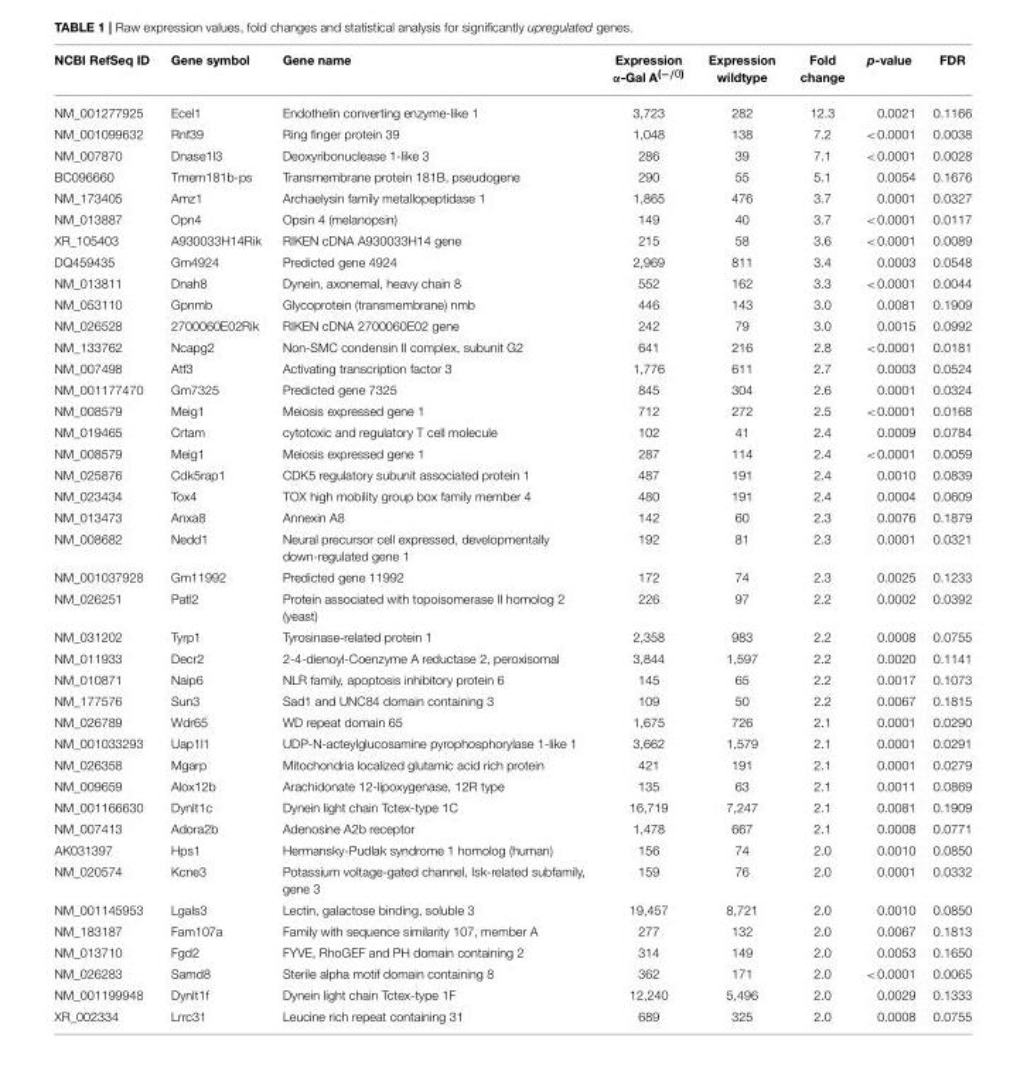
<table><thead><tr><td>NCBI RefSeq ID</td><td>Gene symbol</td><td>Gene name</td><td>Expression α-Gal A<sup>(−/0)</sup></td><td>Expression wildtype</td><td>Fold change</td><td>p-value</td><td>FDR</td></tr></thead><tbody><tr><td>NM_001277925</td><td>Ecel1</td><td>Endothelin converting enzyme-like 1</td><td>3,723</td><td>282</td><td>12.3</td><td>0.0021</td><td>0.1166</td></tr><tr><td>NM_001099632</td><td>Rnf39</td><td>Ring finger protein 39</td><td>1,048</td><td>138</td><td>7.2</td><td>&lt;0.0001</td><td>0.0038</td></tr><tr><td>NM_007870</td><td>Dnase1l3</td><td>Deoxyribonuclease 1-like 3</td><td>286</td><td>39</td><td>7.1</td><td>&lt;0.0001</td><td>0.0028</td></tr><tr><td>BC096660</td><td>Tmem181b-ps</td><td>Transmembrane protein 181B, pseudogene</td><td>290</td><td>55</td><td>5.1</td><td>0.0054</td><td>0.1676</td></tr><tr><td>NM_173405</td><td>Amz1</td><td>Archaelysin family metallopeptidase 1</td><td>1,865</td><td>476</td><td>3.7</td><td>0.0001</td><td>0.0327</td></tr><tr><td>NM_013887</td><td>Opn4</td><td>Opsin 4 (melanopsin)</td><td>149</td><td>40</td><td>3.7</td><td>&lt;0.0001</td><td>0.0117</td></tr><tr><td>XR_105403</td><td>A930033H14Rik</td><td>RIKEN cDNA A930033H14 gene</td><td>215</td><td>58</td><td>3.6</td><td>&lt;0.0001</td><td>0.0089</td></tr><tr><td>DQ459435</td><td>Gm4924</td><td>Predicted gene 4924</td><td>2,969</td><td>811</td><td>3.4</td><td>0.0003</td><td>0.0548</td></tr><tr><td>NM_013811</td><td>Dnah8</td><td>Dynein, axonemal, heavy chain 8</td><td>552</td><td>162</td><td>3.3</td><td>&lt;0.0001</td><td>0.0044</td></tr><tr><td>NM_053110</td><td>Gpnmb</td><td>Glycoprotein (transmembrane) nmb</td><td>446</td><td>143</td><td>3.0</td><td>0.0081</td><td>0.1909</td></tr><tr><td>NM_026528</td><td>2700060E02Rik</td><td>RIKEN cDNA 2700060E02 gene</td><td>242</td><td>79</td><td>3.0</td><td>0.0015</td><td>0.0992</td></tr><tr><td>NM_133762</td><td>Ncapg2</td><td>Non-SMC condensin II complex, subunit G2</td><td>641</td><td>216</td><td>2.8</td><td>&lt;0.0001</td><td>0.0181</td></tr><tr><td>NM_007498</td><td>Atf3</td><td>Activating transcription factor 3</td><td>1,776</td><td>611</td><td>2.7</td><td>0.0003</td><td>0.0524</td></tr><tr><td>NM_001177470</td><td>Gm7325</td><td>Predicted gene 7325</td><td>845</td><td>304</td><td>2.6</td><td>0.0001</td><td>0.0324</td></tr><tr><td>NM_008579</td><td>Meig1</td><td>Meiosis expressed gene 1</td><td>712</td><td>272</td><td>2.5</td><td>&lt;0.0001</td><td>0.0168</td></tr><tr><td>NM_019465</td><td>Crtam</td><td>cytotoxic and regulatory T cell molecule</td><td>102</td><td>41</td><td>2.4</td><td>0.0009</td><td>0.0784</td></tr><tr><td>NM_008579</td><td>Meig1</td><td>Meiosis expressed gene 1</td><td>287</td><td>114</td><td>2.4</td><td>&lt;0.0001</td><td>0.0059</td></tr><tr><td>NM_025876</td><td>Cdk5rap1</td><td>CDK5 regulatory subunit associated protein 1</td><td>487</td><td>191</td><td>2.4</td><td>0.0010</td><td>0.0839</td></tr><tr><td>NM_023434</td><td>Tox4</td><td>TOX high mobility group box family member 4</td><td>480</td><td>191</td><td>2.4</td><td>0.0004</td><td>0.0609</td></tr><tr><td>NM_013473</td><td>Anxa8</td><td>Annexin A8</td><td>142</td><td>60</td><td>2.3</td><td>0.0076</td><td>0.1879</td></tr><tr><td>NM_008682</td><td>Nedd1</td><td>Neural precursor cell expressed, developmentally down-regulated gene 1</td><td>192</td><td>81</td><td>2.3</td><td>0.0001</td><td>0.0321</td></tr><tr><td>NM_001037928</td><td>Gm11992</td><td>Predicted gene 11992</td><td>172</td><td>74</td><td>2.3</td><td>0.0025</td><td>0.1233</td></tr><tr><td>NM_026251</td><td>Patl2</td><td>Protein associated with topoisomerase II homolog 2 (yeast)</td><td>226</td><td>97</td><td>2.2</td><td>0.0002</td><td>0.0392</td></tr><tr><td>NM_031202</td><td>Tyrp1</td><td>Tyrosinase-related protein 1</td><td>2,358</td><td>983</td><td>2.2</td><td>0.0008</td><td>0.0755</td></tr><tr><td>NM_011933</td><td>Decr2</td><td>2-4-dienoyl-Coenzyme A reductase 2, peroxisomal</td><td>3,844</td><td>1,597</td><td>2.2</td><td>0.0020</td><td>0.1141</td></tr><tr><td>NM_010871</td><td>Naip6</td><td>NLR family, apoptosis inhibitory protein 6</td><td>145</td><td>65</td><td>2.2</td><td>0.0017</td><td>0.1073</td></tr><tr><td>NM_177576</td><td>Sun3</td><td>Sad1 and UNC84 domain containing 3</td><td>109</td><td>50</td><td>2.2</td><td>0.0067</td><td>0.1815</td></tr><tr><td>NM_026789</td><td>Wdr65</td><td>WD repeat domain 65</td><td>1,675</td><td>726</td><td>2.1</td><td>0.0001</td><td>0.0290</td></tr><tr><td>NM_001033293</td><td>Uap1l1</td><td>UDP-N-acteylglucosamine pyrophosphorylase 1-like 1</td><td>3,662</td><td>1,579</td><td>2.1</td><td>0.0001</td><td>0.0291</td></tr><tr><td>NM_026358</td><td>Mgarp</td><td>Mitochondria localized glutamic acid rich protein</td><td>421</td><td>191</td><td>2.1</td><td>0.0001</td><td>0.0279</td></tr><tr><td>NM_009659</td><td>Alox12b</td><td>Arachidonate 12-lipoxygenase, 12R type</td><td>135</td><td>63</td><td>2.1</td><td>0.0011</td><td>0.0869</td></tr><tr><td>NM_001166630</td><td>Dynlt1c</td><td>Dynein light chain Tctex-type 1C</td><td>16,719</td><td>7,247</td><td>2.1</td><td>0.0081</td><td>0.1909</td></tr><tr><td>NM_007413</td><td>Adora2b</td><td>Adenosine A2b receptor</td><td>1,478</td><td>667</td><td>2.1</td><td>0.0008</td><td>0.0771</td></tr><tr><td>AK031397</td><td>Hps1</td><td>Hermansky-Pudlak syndrome 1 homolog (human)</td><td>156</td><td>74</td><td>2.0</td><td>0.0010</td><td>0.0850</td></tr><tr><td>NM_020574</td><td>Kcne3</td><td>Potassium voltage-gated channel, Isk-related subfamily, gene 3</td><td>159</td><td>76</td><td>2.0</td><td>0.0001</td><td>0.0332</td></tr><tr><td>NM_001145953</td><td>Lgals3</td><td>Lectin, galactose binding, soluble 3</td><td>19,457</td><td>8,721</td><td>2.0</td><td>0.0010</td><td>0.0850</td></tr><tr><td>NM_183187</td><td>Fam107a</td><td>Family with sequence similarity 107, member A</td><td>277</td><td>132</td><td>2.0</td><td>0.0067</td><td>0.1813</td></tr><tr><td>NM_013710</td><td>Fgd2</td><td>FYVE, RhoGEF and PH domain containing 2</td><td>314</td><td>149</td><td>2.0</td><td>0.0053</td><td>0.1650</td></tr><tr><td>NM_026283</td><td>Samd8</td><td>Sterile alpha motif domain containing 8</td><td>362</td><td>171</td><td>2.0</td><td>&lt;0.0001</td><td>0.0065</td></tr><tr><td>NM_001199948</td><td>Dynlt1f</td><td>Dynein light chain Tctex-type 1F</td><td>12,240</td><td>5,496</td><td>2.0</td><td>0.0029</td><td>0.1333</td></tr><tr><td>XR_002334</td><td>Lrrc31</td><td>Leucine rich repeat containing 31</td><td>689</td><td>325</td><td>2.0</td><td>0.0008</td><td>0.0755</td></tr></tbody></table>